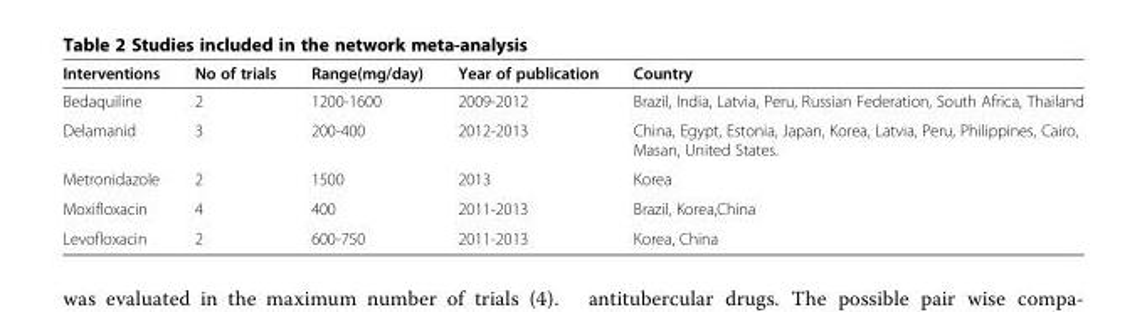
<table><thead><tr><td>Interventions</td><td>No of trials</td><td>Range(mg/day)</td><td>Year of publication</td><td>Country</td></tr></thead><tbody><tr><td>Bedaquiline</td><td>2</td><td>1200-1600</td><td>2009-2012</td><td>Brazil, India, Latvia, Peru, Russian Federation, South Africa, Thailand</td></tr><tr><td>Delamanid</td><td>3</td><td>200-400</td><td>2012-2013</td><td>China, Egypt, Estonia, Japan, Korea, Latvia, Peru, Philippines, Cairo, Masan, United States.</td></tr><tr><td>Metronidazole</td><td>2</td><td>1500</td><td>2013</td><td>Korea</td></tr><tr><td>Moxifloxacin</td><td>4</td><td>400</td><td>2011-2013</td><td>Brazil, Korea,China</td></tr><tr><td>Levofloxacin</td><td>2</td><td>600-750</td><td>2011-2013</td><td>Korea, China</td></tr></tbody></table>